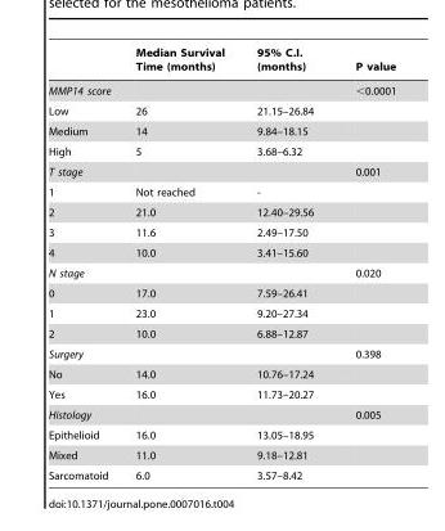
<table><thead><tr><td></td><td>Median Survival Time (months)</td><td>95% C.I. (months)</td><td>P value</td></tr></thead><tbody><tr><td>MMP14 score</td><td></td><td></td><td>&lt;0.0001</td></tr><tr><td>Low</td><td>26</td><td>21.15–26.84</td><td></td></tr><tr><td>Medium</td><td>14</td><td>9.84–18.15</td><td></td></tr><tr><td>High</td><td>5</td><td>3.68–6.32</td><td></td></tr><tr><td>T stage</td><td></td><td></td><td>0.001</td></tr><tr><td>1</td><td>Not reached</td><td>-</td><td></td></tr><tr><td>2</td><td>21.0</td><td>12.40–29.56</td><td></td></tr><tr><td>3</td><td>11.6</td><td>2.49–17.50</td><td></td></tr><tr><td>4</td><td>10.0</td><td>3.41–15.60</td><td></td></tr><tr><td>N stage</td><td></td><td></td><td>0.020</td></tr><tr><td>0</td><td>17.0</td><td>7.59–26.41</td><td></td></tr><tr><td>1</td><td>23.0</td><td>9.20–27.34</td><td></td></tr><tr><td>2</td><td>10.0</td><td>6.88–12.87</td><td></td></tr><tr><td>Surgery</td><td></td><td></td><td>0.398</td></tr><tr><td>No</td><td>14.0</td><td>10.76–17.24</td><td></td></tr><tr><td>Yes</td><td>16.0</td><td>11.73–20.27</td><td></td></tr><tr><td>Histology</td><td></td><td></td><td>0.005</td></tr><tr><td>Epithelioid</td><td>16.0</td><td>13.05–18.95</td><td></td></tr><tr><td>Mixed</td><td>11.0</td><td>9.18–12.81</td><td></td></tr><tr><td>Sarcomatoid</td><td>6.0</td><td>3.57–8.42</td><td></td></tr></tbody></table>